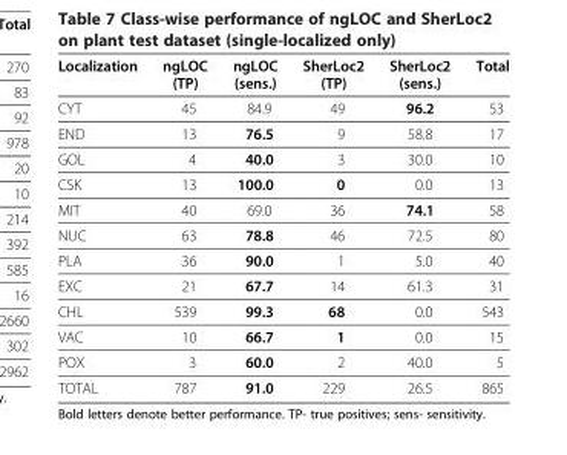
<table><thead><tr><td>Localization</td><td>ngLOC (TP)</td><td>ngLOC (sens.)</td><td>SherLoc2 (TP)</td><td>SherLoc2 (sens.)</td><td>Total</td></tr></thead><tbody><tr><td>CYT</td><td>45</td><td>84.9</td><td>49</td><td>96.2</td><td>53</td></tr><tr><td>END</td><td>13</td><td>76.5</td><td>9</td><td>58.8</td><td>17</td></tr><tr><td>GOL</td><td>4</td><td>40.0</td><td>3</td><td>30.0</td><td>10</td></tr><tr><td>CSK</td><td>13</td><td>100.0</td><td>0</td><td>0.0</td><td>13</td></tr><tr><td>MIT</td><td>40</td><td>69.0</td><td>36</td><td>74.1</td><td>58</td></tr><tr><td>NUC</td><td>63</td><td>78.8</td><td>46</td><td>72.5</td><td>80</td></tr><tr><td>PLA</td><td>36</td><td>90.0</td><td>1</td><td>5.0</td><td>40</td></tr><tr><td>EXC</td><td>21</td><td>67.7</td><td>14</td><td>61.3</td><td>31</td></tr><tr><td>CHL</td><td>539</td><td>99.3</td><td>68</td><td>0.0</td><td>543</td></tr><tr><td>VAC</td><td>10</td><td>66.7</td><td>1</td><td>0.0</td><td>15</td></tr><tr><td>POX</td><td>3</td><td>60.0</td><td>2</td><td>40.0</td><td>5</td></tr><tr><td>TOTAL</td><td>787</td><td>91.0</td><td>229</td><td>26.5</td><td>865</td></tr></tbody></table>